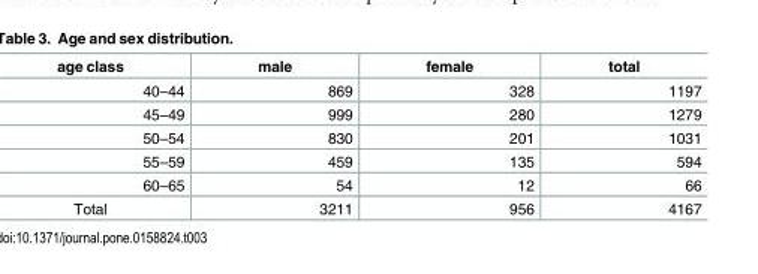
<table><thead><tr><td>age class</td><td>male</td><td>female</td><td>total</td></tr></thead><tbody><tr><td>40–44</td><td>869</td><td>328</td><td>1197</td></tr><tr><td>45–49</td><td>999</td><td>280</td><td>1279</td></tr><tr><td>50–54</td><td>830</td><td>201</td><td>1031</td></tr><tr><td>55–59</td><td>459</td><td>135</td><td>594</td></tr><tr><td>60–65</td><td>54</td><td>12</td><td>66</td></tr><tr><td>Total</td><td>3211</td><td>956</td><td>4167</td></tr></tbody></table>